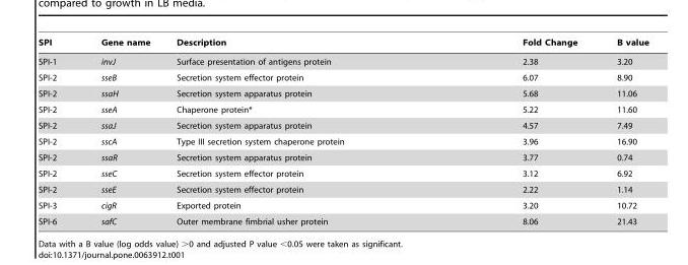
<table><thead><tr><td>SPI</td><td>Gene name</td><td>Description</td><td>Fold Change</td><td>B value</td></tr></thead><tbody><tr><td>SPI-1</td><td>invJ</td><td>Surface presentation of antigens protein</td><td>2.38</td><td>3.20</td></tr><tr><td>SPI-2</td><td>sseB</td><td>Secretion system effector protein</td><td>6.07</td><td>8.90</td></tr><tr><td>SPI-2</td><td>ssaH</td><td>Secretion system apparatus protein</td><td>5.68</td><td>11.06</td></tr><tr><td>SPI-2</td><td>sseA</td><td>Chaperone protein*</td><td>5.22</td><td>11.60</td></tr><tr><td>SPI-2</td><td>ssaJ</td><td>Secretion system apparatus protein</td><td>4.57</td><td>7.49</td></tr><tr><td>SPI-2</td><td>sscA</td><td>Type III secretion system chaperone protein</td><td>3.96</td><td>16.90</td></tr><tr><td>SPI-2</td><td>ssaR</td><td>Secretion system apparatus protein</td><td>3.77</td><td>0.74</td></tr><tr><td>SPI-2</td><td>sseC</td><td>Secretion system effector protein</td><td>3.12</td><td>6.92</td></tr><tr><td>SPI-2</td><td>sseE</td><td>Secretion system effector protein</td><td>2.22</td><td>1.14</td></tr><tr><td>SPI-3</td><td>cigR</td><td>Exported protein</td><td>3.20</td><td>10.72</td></tr><tr><td>SPI-6</td><td>safC</td><td>Outer membrane fimbrial usher protein</td><td>8.06</td><td>21.43</td></tr></tbody></table>